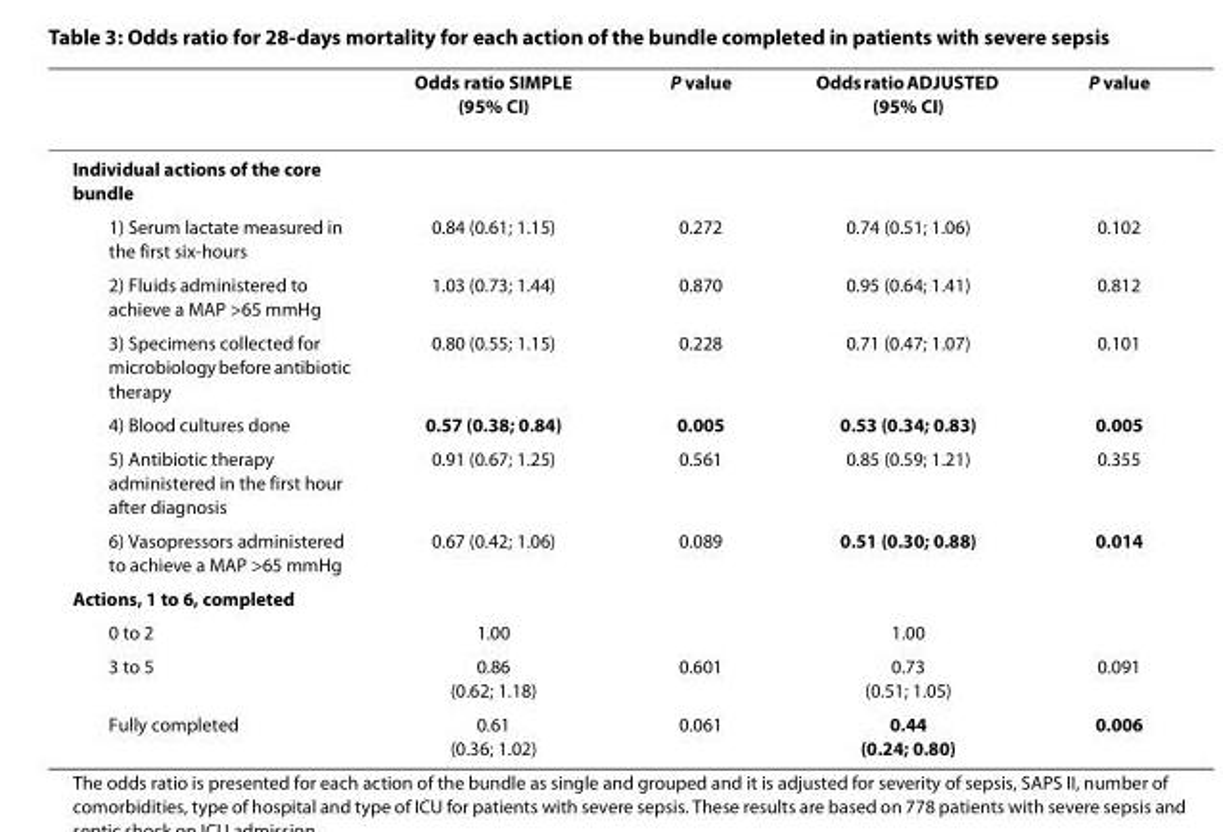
<table><thead><tr><td></td><td>Odds ratio SIMPLE (95% CI)</td><td>P value</td><td>Odds ratio ADJUSTED (95% CI)</td><td>P value</td></tr></thead><tbody><tr><td colspan="5">Individual actions of the core bundle</td></tr><tr><td>1) Serum lactate measured in the first six-hours</td><td>0.84 (0.61; 1.15)</td><td>0.272</td><td>0.74 (0.51; 1.06)</td><td>0.102</td></tr><tr><td>2) Fluids administered to achieve a MAP &gt;65 mmHg</td><td>1.03 (0.73; 1.44)</td><td>0.870</td><td>0.95 (0.64; 1.41)</td><td>0.812</td></tr><tr><td>3) Specimens collected for microbiology before antibiotic therapy</td><td>0.80 (0.55; 1.15)</td><td>0.228</td><td>0.71 (0.47; 1.07)</td><td>0.101</td></tr><tr><td>4) Blood cultures done</td><td>0.57 (0.38; 0.84)</td><td>0.005</td><td>0.53 (0.34; 0.83)</td><td>0.005</td></tr><tr><td>5) Antibiotic therapy administered in the first hour after diagnosis</td><td>0.91 (0.67; 1.25)</td><td>0.561</td><td>0.85 (0.59; 1.21)</td><td>0.355</td></tr><tr><td>6) Vasopressors administered to achieve a MAP &gt;65 mmHg</td><td>0.67 (0.42; 1.06)</td><td>0.089</td><td>0.51 (0.30; 0.88)</td><td>0.014</td></tr><tr><td colspan="5">Actions, 1 to 6, completed</td></tr><tr><td>0 to 2</td><td>1.00</td><td></td><td>1.00</td><td></td></tr><tr><td>3 to 5</td><td>0.86 (0.62; 1.18)</td><td>0.601</td><td>0.73 (0.51; 1.05)</td><td>0.091</td></tr><tr><td>Fully completed</td><td>0.61 (0.36; 1.02)</td><td>0.061</td><td>0.44 (0.24; 0.80)</td><td>0.006</td></tr></tbody></table>